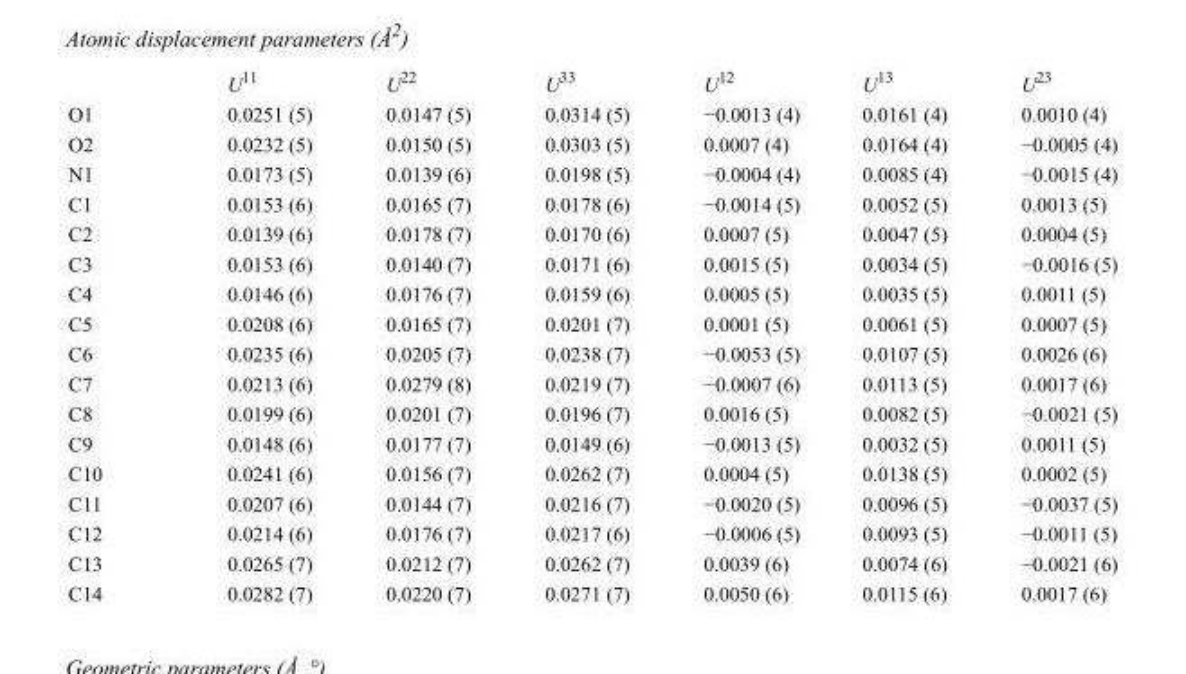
<table><thead><tr><td></td><td>U<sup>11</sup></td><td>U<sup>22</sup></td><td>U<sup>33</sup></td><td>U<sup>12</sup></td><td>U<sup>13</sup></td><td>U<sup>23</sup></td></tr></thead><tbody><tr><td>O1</td><td>0.0251 (5)</td><td>0.0147 (5)</td><td>0.0314 (5)</td><td>−0.0013 (4)</td><td>0.0161 (4)</td><td>0.0010 (4)</td></tr><tr><td>O2</td><td>0.0232 (5)</td><td>0.0150 (5)</td><td>0.0303 (5)</td><td>0.0007 (4)</td><td>0.0164 (4)</td><td>−0.0005 (4)</td></tr><tr><td>N1</td><td>0.0173 (5)</td><td>0.0139 (6)</td><td>0.0198 (5)</td><td>−0.0004 (4)</td><td>0.0085 (4)</td><td>−0.0015 (4)</td></tr><tr><td>C1</td><td>0.0153 (6)</td><td>0.0165 (7)</td><td>0.0178 (6)</td><td>−0.0014 (5)</td><td>0.0052 (5)</td><td>0.0013 (5)</td></tr><tr><td>C2</td><td>0.0139 (6)</td><td>0.0178 (7)</td><td>0.0170 (6)</td><td>0.0007 (5)</td><td>0.0047 (5)</td><td>0.0004 (5)</td></tr><tr><td>C3</td><td>0.0153 (6)</td><td>0.0140 (7)</td><td>0.0171 (6)</td><td>0.0015 (5)</td><td>0.0034 (5)</td><td>−0.0016 (5)</td></tr><tr><td>C4</td><td>0.0146 (6)</td><td>0.0176 (7)</td><td>0.0159 (6)</td><td>0.0005 (5)</td><td>0.0035 (5)</td><td>0.0011 (5)</td></tr><tr><td>C5</td><td>0.0208 (6)</td><td>0.0165 (7)</td><td>0.0201 (7)</td><td>0.0001 (5)</td><td>0.0061 (5)</td><td>0.0007 (5)</td></tr><tr><td>C6</td><td>0.0235 (6)</td><td>0.0205 (7)</td><td>0.0238 (7)</td><td>−0.0053 (5)</td><td>0.0107 (5)</td><td>0.0026 (6)</td></tr><tr><td>C7</td><td>0.0213 (6)</td><td>0.0279 (8)</td><td>0.0219 (7)</td><td>−0.0007 (6)</td><td>0.0113 (5)</td><td>0.0017 (6)</td></tr><tr><td>C8</td><td>0.0199 (6)</td><td>0.0201 (7)</td><td>0.0196 (7)</td><td>0.0016 (5)</td><td>0.0082 (5)</td><td>−0.0021 (5)</td></tr><tr><td>C9</td><td>0.0148 (6)</td><td>0.0177 (7)</td><td>0.0149 (6)</td><td>−0.0013 (5)</td><td>0.0032 (5)</td><td>0.0011 (5)</td></tr><tr><td>C10</td><td>0.0241 (6)</td><td>0.0156 (7)</td><td>0.0262 (7)</td><td>0.0004 (5)</td><td>0.0138 (5)</td><td>0.0002 (5)</td></tr><tr><td>C11</td><td>0.0207 (6)</td><td>0.0144 (7)</td><td>0.0216 (7)</td><td>−0.0020 (5)</td><td>0.0096 (5)</td><td>−0.0037 (5)</td></tr><tr><td>C12</td><td>0.0214 (6)</td><td>0.0176 (7)</td><td>0.0217 (6)</td><td>−0.0006 (5)</td><td>0.0093 (5)</td><td>−0.0011 (5)</td></tr><tr><td>C13</td><td>0.0265 (7)</td><td>0.0212 (7)</td><td>0.0262 (7)</td><td>0.0039 (6)</td><td>0.0074 (6)</td><td>−0.0021 (6)</td></tr><tr><td>C14</td><td>0.0282 (7)</td><td>0.0220 (7)</td><td>0.0271 (7)</td><td>0.0050 (6)</td><td>0.0115 (6)</td><td>0.0017 (6)</td></tr></tbody></table>